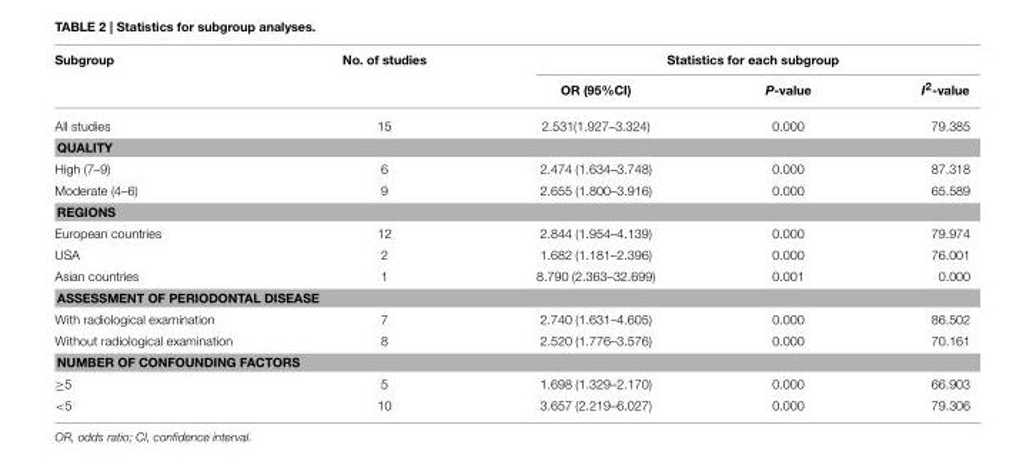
<table><thead><tr><td rowspan="2">Subgroup</td><td rowspan="2">No. of studies</td><td colspan="3">Statistics for each subgroup</td></tr><tr><td>OR (95%CI)</td><td>P-value</td><td>I<sup>2</sup>-value</td></tr></thead><tbody><tr><td>All studies</td><td>15</td><td>2.531(1.927–3.324)</td><td>0.000</td><td>79.385</td></tr><tr><td colspan="5">QUALITY</td></tr><tr><td>High (7–9)</td><td>6</td><td>2.474 (1.634–3.748)</td><td>0.000</td><td>87.318</td></tr><tr><td>Moderate (4–6)</td><td>9</td><td>2.655 (1.800–3.916)</td><td>0.000</td><td>65.589</td></tr><tr><td colspan="5">REGIONS</td></tr><tr><td>European countries</td><td>12</td><td>2.844 (1.954–4.139)</td><td>0.000</td><td>79.974</td></tr><tr><td>USA</td><td>2</td><td>1.682 (1.181–2.396)</td><td>0.000</td><td>76.001</td></tr><tr><td>Asian countries</td><td>1</td><td>8.790 (2.363–32.699)</td><td>0.001</td><td>0.000</td></tr><tr><td colspan="5">ASSESSMENT OF PERIODONTAL DISEASE</td></tr><tr><td>With radiological examination</td><td>7</td><td>2.740 (1.631–4.605)</td><td>0.000</td><td>86.502</td></tr><tr><td>Without radiological examination</td><td>8</td><td>2.520 (1.776–3.576)</td><td>0.000</td><td>70.161</td></tr><tr><td colspan="5">NUMBER OF CONFOUNDING FACTORS</td></tr><tr><td>≥5</td><td>5</td><td>1.698 (1.329–2.170)</td><td>0.000</td><td>66.903</td></tr><tr><td>&lt;5</td><td>10</td><td>3.657 (2.219–6.027)</td><td>0.000</td><td>79.306</td></tr></tbody></table>